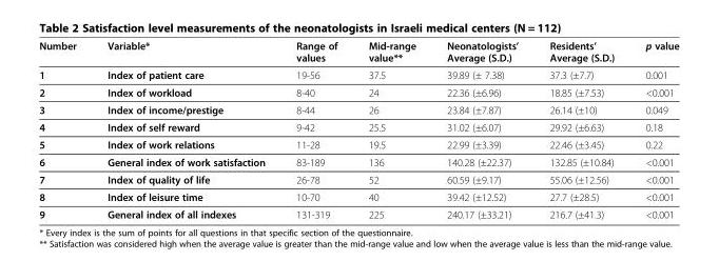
<table><thead><tr><td>Number</td><td>Variable*</td><td>Range of values</td><td>Mid-range value**</td><td>Neonatologists’ Average (S.D.)</td><td>Residents’ Average (S.D.)</td><td>p value</td></tr></thead><tbody><tr><td>1</td><td>Index of patient care</td><td>19-56</td><td>37.5</td><td>39.89 (± 7.38)</td><td>37.3 (±7.7)</td><td>0.001</td></tr><tr><td>2</td><td>Index of workload</td><td>8-40</td><td>24</td><td>22.36 (±6.96)</td><td>18.85 (±7.53)</td><td>&lt;0.001</td></tr><tr><td>3</td><td>Index of income/prestige</td><td>8-44</td><td>26</td><td>23.84 (±7.87)</td><td>26.14 (±10)</td><td>0.049</td></tr><tr><td>4</td><td>Index of self reward</td><td>9-42</td><td>25.5</td><td>31.02 (±6.07)</td><td>29.92 (±6.63)</td><td>0.18</td></tr><tr><td>5</td><td>Index of work relations</td><td>11-28</td><td>19.5</td><td>22.99 (±3.39)</td><td>22.46 (±3.45)</td><td>0.22</td></tr><tr><td>6</td><td>General index of work satisfaction</td><td>83-189</td><td>136</td><td>140.28 (±22.37)</td><td>132.85 (±10.84)</td><td>&lt;0.001</td></tr><tr><td>7</td><td>Index of quality of life</td><td>26-78</td><td>52</td><td>60.59 (±9.17)</td><td>55.06 (±12.56)</td><td>&lt;0.001</td></tr><tr><td>8</td><td>Index of leisure time</td><td>10-70</td><td>40</td><td>39.42 (±12.52)</td><td>27.7 (±28.5)</td><td>&lt;0.001</td></tr><tr><td>9</td><td>General index of all indexes</td><td>131-319</td><td>225</td><td>240.17 (±33.21)</td><td>216.7 (±41.3)</td><td>&lt;0.001</td></tr></tbody></table>